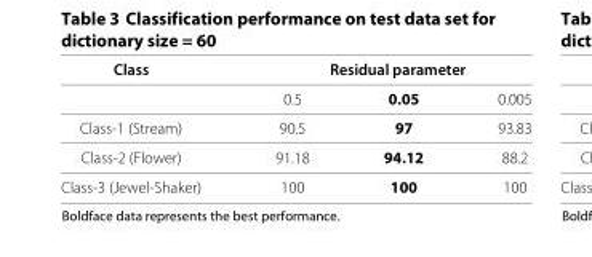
<table><thead><tr><td rowspan="2">Class</td><td colspan="3">Residual parameter</td></tr><tr><td>0.5</td><td>0.05</td><td>0.005</td></tr></thead><tbody><tr><td>Class-1 (Stream)</td><td>90.5</td><td>97</td><td>93.83</td></tr><tr><td>Class-2 (Flower)</td><td>91.18</td><td>94.12</td><td>88.2</td></tr><tr><td>Class-3 (Jewel-Shaker)</td><td>100</td><td>100</td><td>100</td></tr></tbody></table>